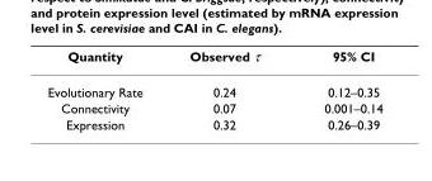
<table><thead><tr><td>Quantity</td><td>Observed τ</td><td>95% CI</td></tr></thead><tbody><tr><td>Evolutionary Rate</td><td>0.24</td><td>0.12–0.35</td></tr><tr><td>Connectivity</td><td>0.07</td><td>0.001–0.14</td></tr><tr><td>Expression</td><td>0.32</td><td>0.26–0.39</td></tr></tbody></table>